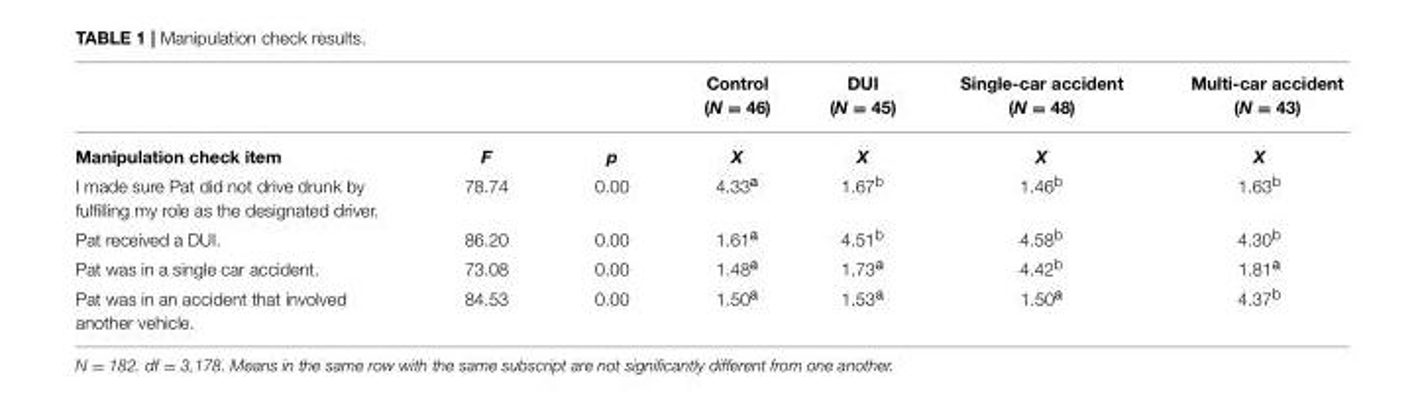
<table><thead><tr><td></td><td></td><td></td><td>Control (N = 46)</td><td>DUI (N = 45)</td><td>Single-car accident (N = 48)</td><td>Multi-car accident (N = 43)</td></tr></thead><tbody><tr><td>Manipulation check item</td><td>F</td><td>p</td><td>X</td><td>X</td><td>X</td><td>X</td></tr><tr><td>I made sure Pat did not drive drunk by fulfilling my role as the designated driver.</td><td>78.74</td><td>0.00</td><td>4.33<sup>a</sup></td><td>1.67<sup>b</sup></td><td>1.46<sup>b</sup></td><td>1.63<sup>b</sup></td></tr><tr><td>Pat received a DUI.</td><td>86.20</td><td>0.00</td><td>1.61<sup>a</sup></td><td>4.51<sup>b</sup></td><td>4.58<sup>b</sup></td><td>4.30<sup>b</sup></td></tr><tr><td>Pat was in a single car accident.</td><td>73.08</td><td>0.00</td><td>1.48<sup>a</sup></td><td>1.73<sup>a</sup></td><td>4.42<sup>b</sup></td><td>1.81<sup>a</sup></td></tr><tr><td>Pat was in an accident that involved another vehicle.</td><td>84.53</td><td>0.00</td><td>1.50<sup>a</sup></td><td>1.53<sup>a</sup></td><td>1.50<sup>a</sup></td><td>4.37<sup>b</sup></td></tr></tbody></table>